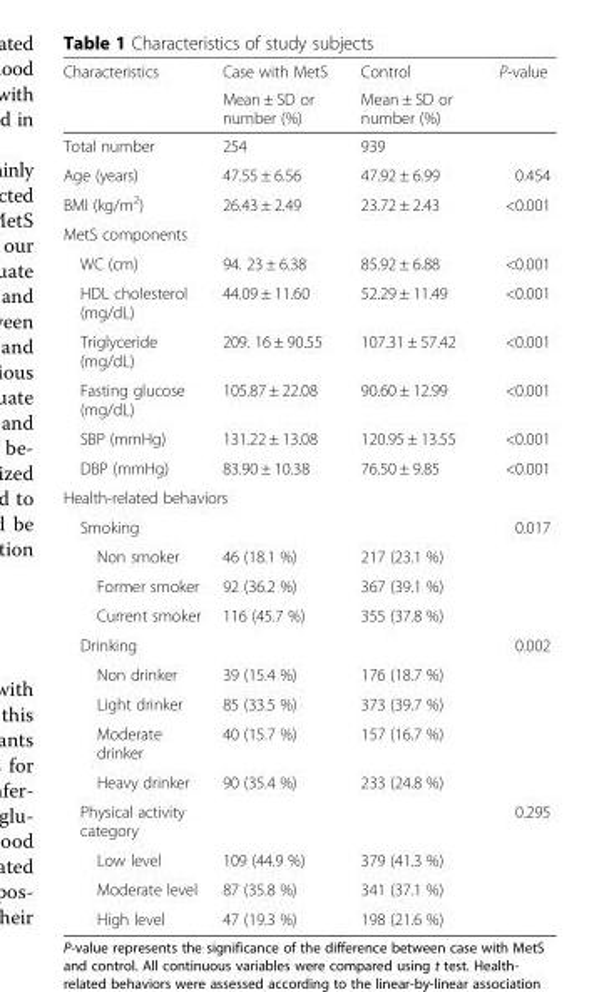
<table><thead><tr><td rowspan="2">Characteristics</td><td rowspan="2">Case with MetS Mean ± SD or number (%)</td><td rowspan="2">Control Mean ± SD or number (%)</td><td rowspan="2">P-value</td></tr><tr></tr></thead><tbody><tr><td>Total number</td><td>254</td><td>939</td><td></td></tr><tr><td>Age (years)</td><td>47.55 ± 6.56</td><td>47.92 ± 6.99</td><td>0.454</td></tr><tr><td>BMI (kg/m<sup>2</sup>)</td><td>26.43 ± 2.49</td><td>23.72 ± 2.43</td><td>&lt;0.001</td></tr><tr><td colspan="4">MetS components</td></tr><tr><td>WC (cm)</td><td>94. 23 ± 6.38</td><td>85.92 ± 6.88</td><td>&lt;0.001</td></tr><tr><td>HDL cholesterol (mg/dL)</td><td>44.09 ± 11.60</td><td>52.29 ± 11.49</td><td>&lt;0.001</td></tr><tr><td>Triglyceride (mg/dL)</td><td>209. 16 ± 90.55</td><td>107.31 ± 57.42</td><td>&lt;0.001</td></tr><tr><td>Fasting glucose (mg/dL)</td><td>105.87 ± 22.08</td><td>90.60 ± 12.99</td><td>&lt;0.001</td></tr><tr><td>SBP (mmHg)</td><td>131.22 ± 13.08</td><td>120.95 ± 13.55</td><td>&lt;0.001</td></tr><tr><td>DBP (mmHg)</td><td>83.90 ± 10.38</td><td>76.50 ± 9.85</td><td>&lt;0.001</td></tr><tr><td colspan="4">Health-related behaviors</td></tr><tr><td>Smoking</td><td></td><td></td><td>0.017</td></tr><tr><td>Non smoker</td><td>46 (18.1 %)</td><td>217 (23.1 %)</td><td></td></tr><tr><td>Former smoker</td><td>92 (36.2 %)</td><td>367 (39.1 %)</td><td></td></tr><tr><td>Current smoker</td><td>116 (45.7 %)</td><td>355 (37.8 %)</td><td></td></tr><tr><td>Drinking</td><td></td><td></td><td>0.002</td></tr><tr><td>Non drinker</td><td>39 (15.4 %)</td><td>176 (18.7 %)</td><td></td></tr><tr><td>Light drinker</td><td>85 (33.5 %)</td><td>373 (39.7 %)</td><td></td></tr><tr><td>Moderate drinker</td><td>40 (15.7 %)</td><td>157 (16.7 %)</td><td></td></tr><tr><td>Heavy drinker</td><td>90 (35.4 %)</td><td>233 (24.8 %)</td><td></td></tr><tr><td>Physical activity category</td><td></td><td></td><td>0.295</td></tr><tr><td>Low level</td><td>109 (44.9 %)</td><td>379 (41.3 %)</td><td></td></tr><tr><td>Moderate level</td><td>87 (35.8 %)</td><td>341 (37.1 %)</td><td></td></tr><tr><td>High level</td><td>47 (19.3 %)</td><td>198 (21.6 %)</td><td></td></tr></tbody></table>